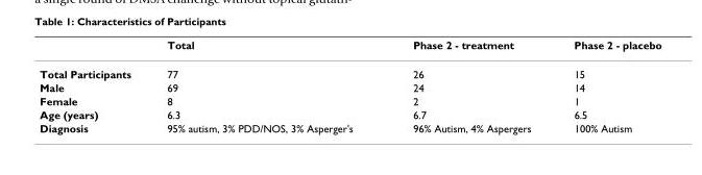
<table><thead><tr><td></td><td>Total</td><td>Phase 2 - treatment</td><td>Phase 2 - placebo</td></tr></thead><tbody><tr><td>Total Participants</td><td>77</td><td>26</td><td>15</td></tr><tr><td>Male</td><td>69</td><td>24</td><td>14</td></tr><tr><td>Female</td><td>8</td><td>2</td><td>1</td></tr><tr><td>Age (years)</td><td>6.3</td><td>6.7</td><td>6.5</td></tr><tr><td>Diagnosis</td><td>95% autism, 3% PDD/NOS, 3% Asperger&#x27;s</td><td>96% Autism, 4% Aspergers</td><td>100% Autism</td></tr></tbody></table>